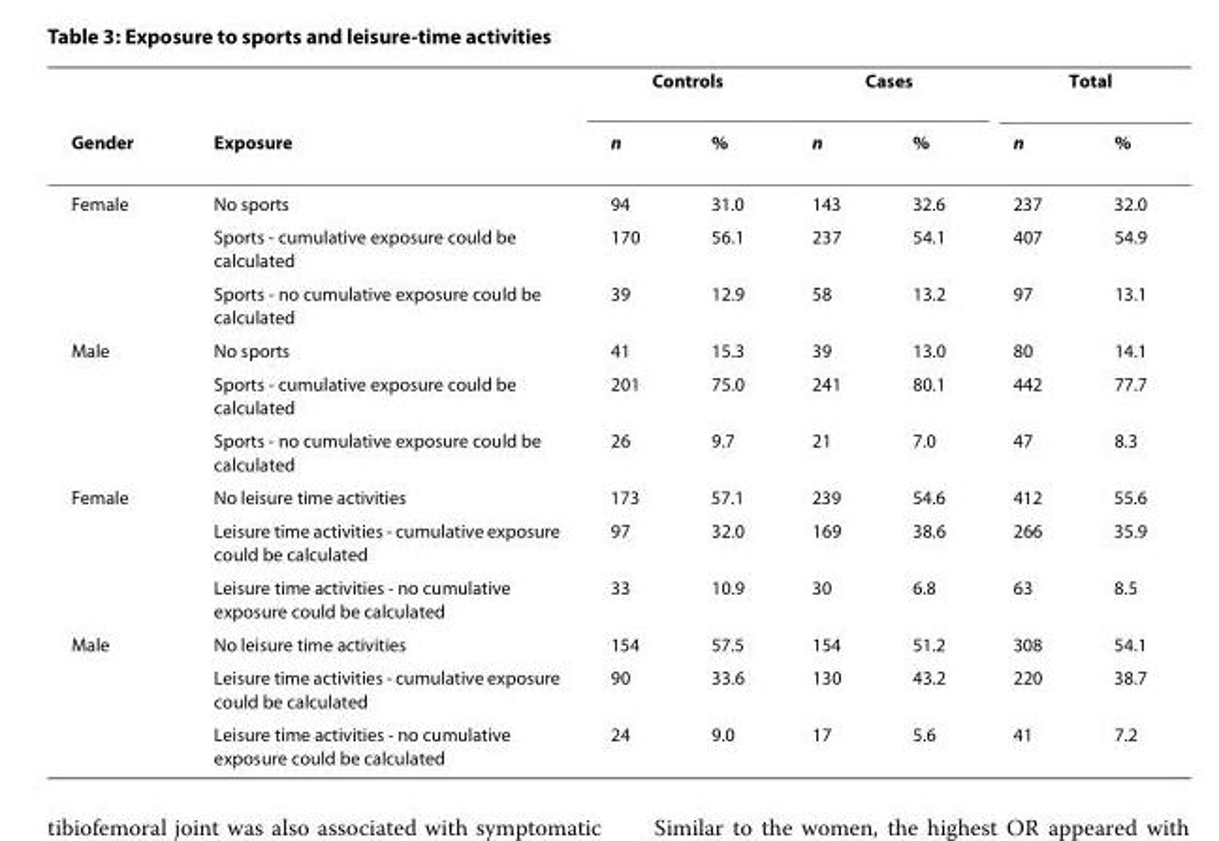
<table><thead><tr><td rowspan="2">Gender</td><td rowspan="2">Exposure</td><td colspan="2">Controls</td><td colspan="2">Cases</td><td colspan="2">Total</td></tr><tr><td>n</td><td>%</td><td>n</td><td>%</td><td>n</td><td>%</td></tr></thead><tbody><tr><td rowspan="3">Female</td><td>No sports</td><td>94</td><td>31.0</td><td>143</td><td>32.6</td><td>237</td><td>32.0</td></tr><tr><td>Sports - cumulative exposure could be calculated</td><td>170</td><td>56.1</td><td>237</td><td>54.1</td><td>407</td><td>54.9</td></tr><tr><td>Sports - no cumulative exposure could be calculated</td><td>39</td><td>12.9</td><td>58</td><td>13.2</td><td>97</td><td>13.1</td></tr><tr><td rowspan="3">Male</td><td>No sports</td><td>41</td><td>15.3</td><td>39</td><td>13.0</td><td>80</td><td>14.1</td></tr><tr><td>Sports - cumulative exposure could be calculated</td><td>201</td><td>75.0</td><td>241</td><td>80.1</td><td>442</td><td>77.7</td></tr><tr><td>Sports - no cumulative exposure could be calculated</td><td>26</td><td>9.7</td><td>21</td><td>7.0</td><td>47</td><td>8.3</td></tr><tr><td rowspan="3">Female</td><td>No leisure time activities</td><td>173</td><td>57.1</td><td>239</td><td>54.6</td><td>412</td><td>55.6</td></tr><tr><td>Leisure time activities - cumulative exposure could be calculated</td><td>97</td><td>32.0</td><td>169</td><td>38.6</td><td>266</td><td>35.9</td></tr><tr><td>Leisure time activities - no cumulative exposure could be calculated</td><td>33</td><td>10.9</td><td>30</td><td>6.8</td><td>63</td><td>8.5</td></tr><tr><td rowspan="3">Male</td><td>No leisure time activities</td><td>154</td><td>57.5</td><td>154</td><td>51.2</td><td>308</td><td>54.1</td></tr><tr><td>Leisure time activities - cumulative exposure could be calculated</td><td>90</td><td>33.6</td><td>130</td><td>43.2</td><td>220</td><td>38.7</td></tr><tr><td>Leisure time activities - no cumulative exposure could be calculated</td><td>24</td><td>9.0</td><td>17</td><td>5.6</td><td>41</td><td>7.2</td></tr></tbody></table>